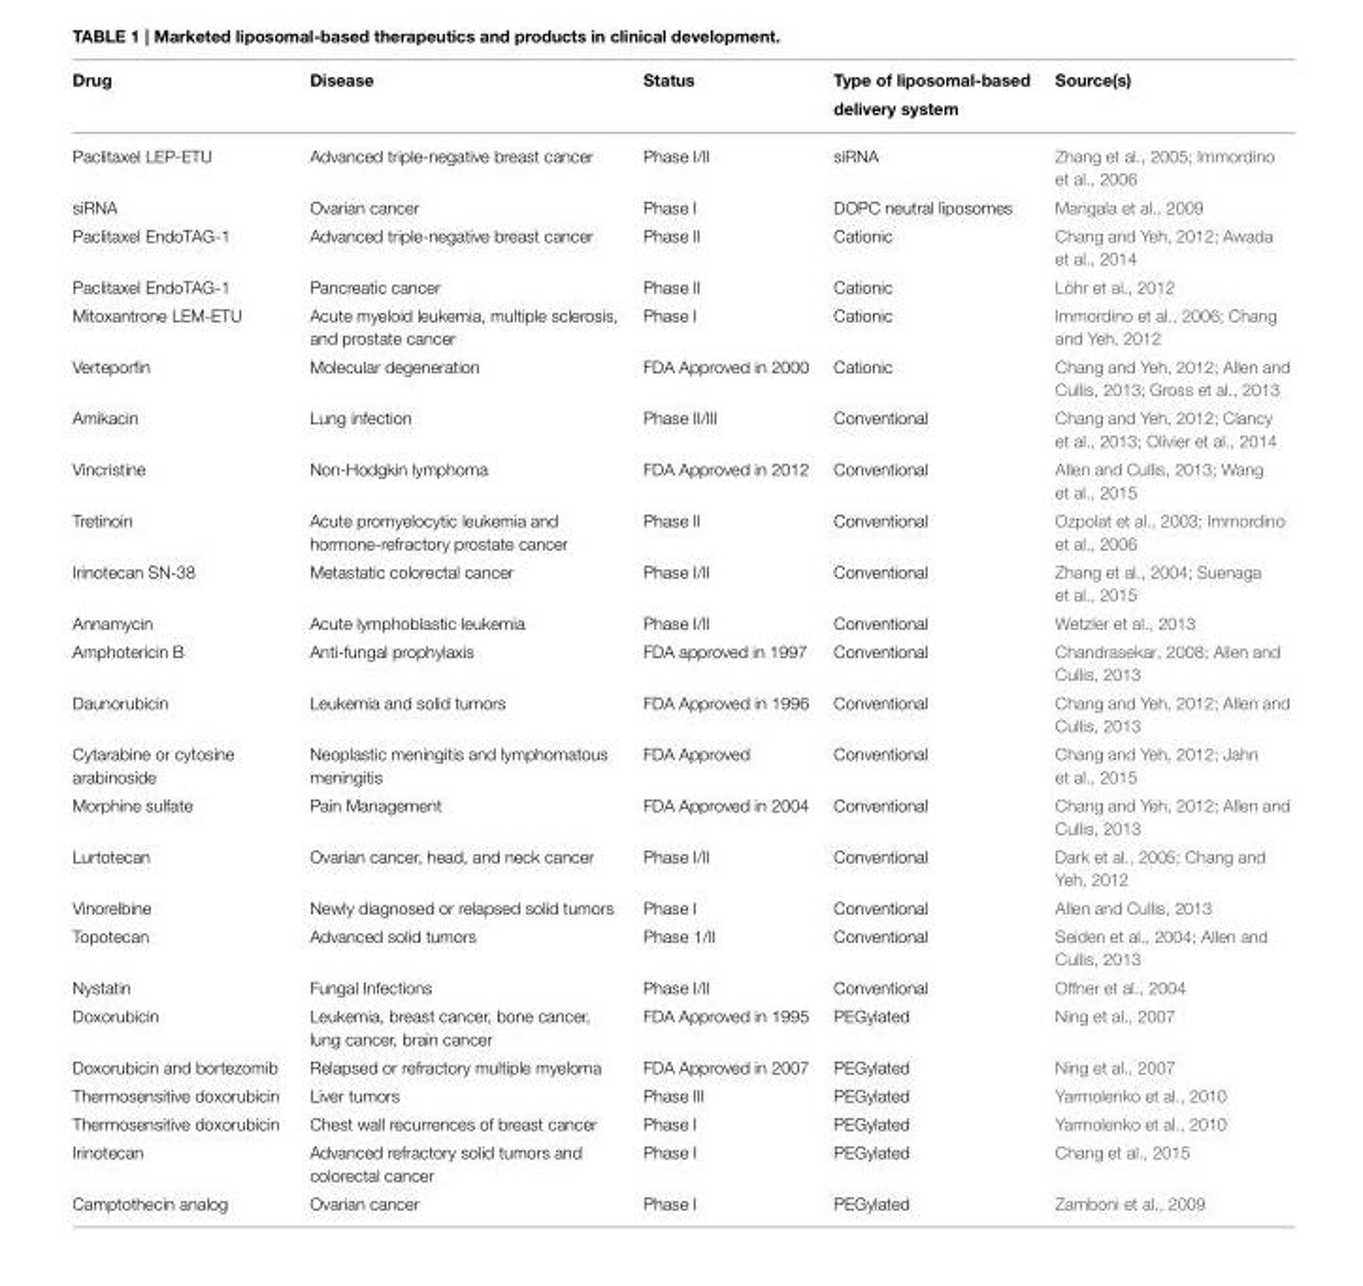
<table><thead><tr><td>Drug</td><td>Disease</td><td>Status</td><td>Type of liposomal-based delivery system</td><td>Source(s)</td></tr></thead><tbody><tr><td>Paclitaxel LEP-ETU</td><td>Advanced triple-negative breast cancer</td><td>Phase I/II</td><td>siRNA</td><td>Zhang et al., 2005; Immordino et al., 2006</td></tr><tr><td>siRNA</td><td>Ovarian cancer</td><td>Phase I</td><td>DOPC neutral liposomes</td><td>Mangala et al., 2009</td></tr><tr><td>Paclitaxel EndoTAG-1</td><td>Advanced triple-negative breast cancer</td><td>Phase II</td><td>Cationic</td><td>Chang and Yeh, 2012; Awada et al., 2014</td></tr><tr><td>Paclitaxel EndoTAG-1</td><td>Pancreatic cancer</td><td>Phase II</td><td>Cationic</td><td>Löhr et al., 2012</td></tr><tr><td>Mitoxantrone LEM-ETU</td><td>Acute myeloid leukemia, multiple sclerosis, and prostate cancer</td><td>Phase I</td><td>Cationic</td><td>Immordino et al., 2006; Chang and Yeh, 2012</td></tr><tr><td>Verteporfin</td><td>Molecular degeneration</td><td>FDA Approved in 2000</td><td>Cationic</td><td>Chang and Yeh, 2012; Allen and Cullis, 2013; Gross et al., 2013</td></tr><tr><td>Amikacin</td><td>Lung infection</td><td>Phase II/III</td><td>Conventional</td><td>Chang and Yeh, 2012; Clancy et al., 2013; Olivier et al., 2014</td></tr><tr><td>Vincristine</td><td>Non-Hodgkin lymphoma</td><td>FDA Approved in 2012</td><td>Conventional</td><td>Allen and Cullis, 2013; Wang et al., 2015</td></tr><tr><td>Tretinoin</td><td>Acute promyelocytic leukemia and hormone-refractory prostate cancer</td><td>Phase II</td><td>Conventional</td><td>Ozpolat et al., 2003; Immordino et al., 2006</td></tr><tr><td>Irinotecan SN-38</td><td>Metastatic colorectal cancer</td><td>Phase I/II</td><td>Conventional</td><td>Zhang et al., 2004; Suenaga et al., 2015</td></tr><tr><td>Annamycin</td><td>Acute lymphoblastic leukemia</td><td>Phase I/II</td><td>Conventional</td><td>Wetzler et al., 2013</td></tr><tr><td>Amphotericin B</td><td>Anti-fungal prophylaxis</td><td>FDA approved in 1997</td><td>Conventional</td><td>Chandrasekar, 2008; Allen and Cullis, 2013</td></tr><tr><td>Daunorubicin</td><td>Leukemia and solid tumors</td><td>FDA Approved in 1996</td><td>Conventional</td><td>Chang and Yeh, 2012; Allen and Cullis, 2013</td></tr><tr><td>Cytarabine or cytosine arabinoside</td><td>Neoplastic meningitis and lymphomatous meningitis</td><td>FDA Approved</td><td>Conventional</td><td>Chang and Yeh, 2012; Jahn et al., 2015</td></tr><tr><td>Morphine sulfate</td><td>Pain Management</td><td>FDA Approved in 2004</td><td>Conventional</td><td>Chang and Yeh, 2012; Allen and Cullis, 2013</td></tr><tr><td>Lurtotecan</td><td>Ovarian cancer, head, and neck cancer</td><td>Phase I/II</td><td>Conventional</td><td>Dark et al., 2005; Chang and Yeh, 2012</td></tr><tr><td>Vinorelbine</td><td>Newly diagnosed or relapsed solid tumors</td><td>Phase I</td><td>Conventional</td><td>Allen and Cullis, 2013</td></tr><tr><td>Topotecan</td><td>Advanced solid tumors</td><td>Phase 1/II</td><td>Conventional</td><td>Seiden et al., 2004; Allen and Cullis, 2013</td></tr><tr><td>Nystatin</td><td>Fungal Infections</td><td>Phase I/II</td><td>Conventional</td><td>Offner et al., 2004</td></tr><tr><td>Doxorubicin</td><td>Leukemia, breast cancer, bone cancer, lung cancer, brain cancer</td><td>FDA Approved in 1995</td><td>PEGylated</td><td>Ning et al., 2007</td></tr><tr><td>Doxorubicin and bortezomib</td><td>Relapsed or refractory multiple myeloma</td><td>FDA Approved in 2007</td><td>PEGylated</td><td>Ning et al., 2007</td></tr><tr><td>Thermosensitive doxorubicin</td><td>Liver tumors</td><td>Phase III</td><td>PEGylated</td><td>Yarmolenko et al., 2010</td></tr><tr><td>Thermosensitive doxorubicin</td><td>Chest wall recurrences of breast cancer</td><td>Phase I</td><td>PEGylated</td><td>Yarmolenko et al., 2010</td></tr><tr><td>Irinotecan</td><td>Advanced refractory solid tumors and colorectal cancer</td><td>Phase I</td><td>PEGylated</td><td>Chang et al., 2015</td></tr><tr><td>Camptothecin analog</td><td>Ovarian cancer</td><td>Phase I</td><td>PEGylated</td><td>Zamboni et al., 2009</td></tr></tbody></table>